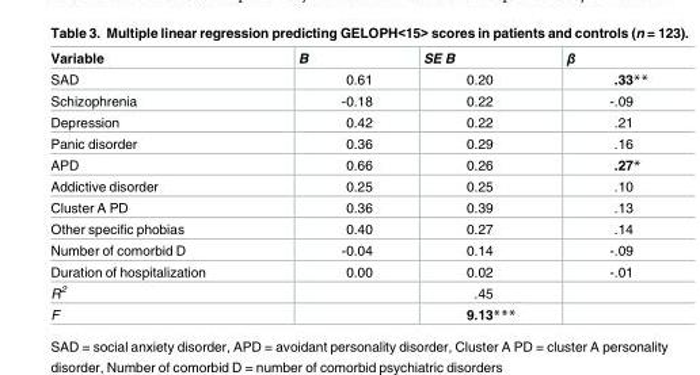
<table><thead><tr><td>Variable</td><td>B</td><td>SE B</td><td>β</td></tr></thead><tbody><tr><td>SAD</td><td>0.61</td><td>0.20</td><td>.33**</td></tr><tr><td>Schizophrenia</td><td>-0.18</td><td>0.22</td><td>-.09</td></tr><tr><td>Depression</td><td>0.42</td><td>0.22</td><td>.21</td></tr><tr><td>Panic disorder</td><td>0.36</td><td>0.29</td><td>.16</td></tr><tr><td>APD</td><td>0.66</td><td>0.26</td><td>.27*</td></tr><tr><td>Addictive disorder</td><td>0.25</td><td>0.25</td><td>.10</td></tr><tr><td>Cluster A PD</td><td>0.36</td><td>0.39</td><td>.13</td></tr><tr><td>Other specific phobias</td><td>0.40</td><td>0.27</td><td>.14</td></tr><tr><td>Number of comorbid D</td><td>-0.04</td><td>0.14</td><td>-.09</td></tr><tr><td>Duration of hospitalization</td><td>0.00</td><td>0.02</td><td>-.01</td></tr><tr><td>R<sup>2</sup></td><td></td><td>.45</td><td></td></tr><tr><td>F</td><td></td><td>9.13***</td><td></td></tr></tbody></table>